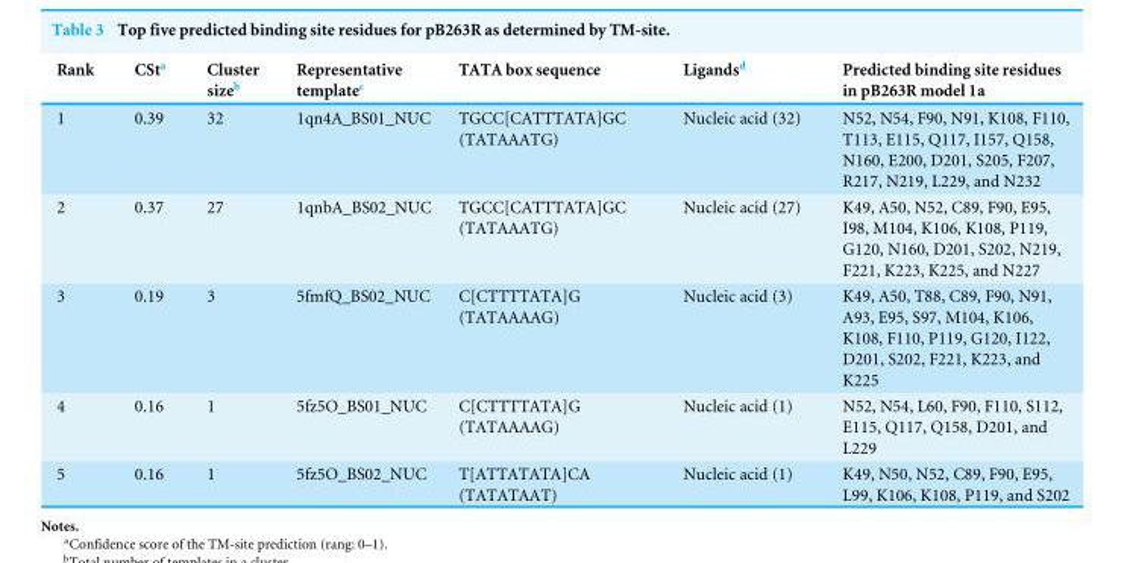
<table><thead><tr><td>Rank</td><td>CSt<sup>a</sup></td><td>Cluster size<sup>b</sup></td><td>Representative template<sup>c</sup></td><td>TATA box sequence</td><td>Ligands<sup>d</sup></td><td>Predicted binding site residues in pB263R model 1a</td></tr></thead><tbody><tr><td>1</td><td>0.39</td><td>32</td><td>1qn4A_BS01_NUC</td><td>TGCC[CATTTATA]GC (TATAAATG)</td><td>Nucleic acid (32)</td><td>N52, N54, F90, N91, K108, F110, T113, E115, Q117, I157, Q158, N160, E200, D201, S205, F207, R217, N219, L229, and N232</td></tr><tr><td>2</td><td>0.37</td><td>27</td><td>1qnbA_BS02_NUC</td><td>TGCC[CATTTATA]GC (TATAAATG)</td><td>Nucleic acid (27)</td><td>K49, A50, N52, C89, F90, E95, I98, M104, K106, K108, P119, G120, N160, D201, S202, N219, F221, K223, K225, and N227</td></tr><tr><td>3</td><td>0.19</td><td>3</td><td>5fmfQ_BS02_NUC</td><td>C[CTTTTATA]G (TATAAAAG)</td><td>Nucleic acid (3)</td><td>K49, A50, T88, C89, F90, N91, A93, E95, S97, M104, K106, K108, F110, P119, G120, I122, D201, S202, F221, K223, and K225</td></tr><tr><td>4</td><td>0.16</td><td>1</td><td>5fz5O_BS01_NUC</td><td>C[CTTTTATA]G (TATAAAAG)</td><td>Nucleic acid (1)</td><td>N52, N54, L60, F90, F110, S112, E115, Q117, Q158, D201, and L229</td></tr><tr><td>5</td><td>0.16</td><td>1</td><td>5fz5O_BS02_NUC</td><td>T[ATTATATA]CA (TATATAAT)</td><td>Nucleic acid (1)</td><td>K49, N50, N52, C89, F90, E95, L99, K106, K108, P119, and S202</td></tr></tbody></table>